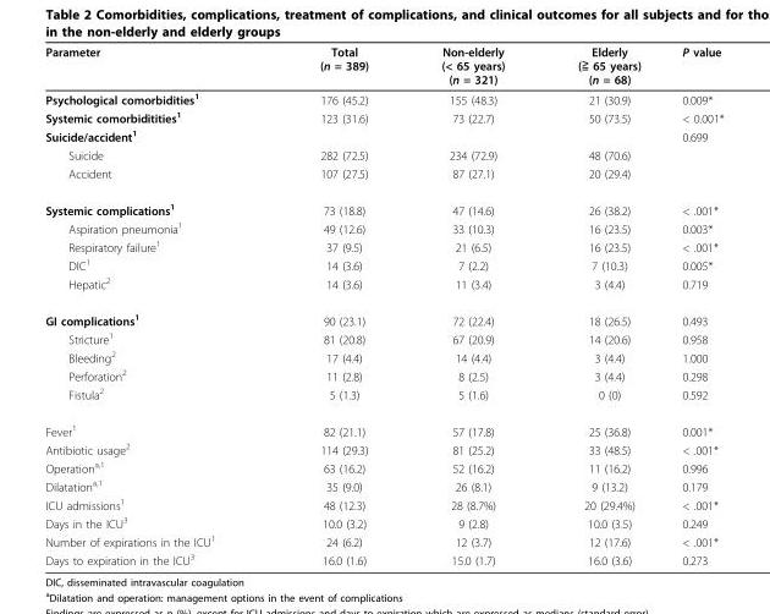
<table><thead><tr><td>Parameter</td><td>Total (n = 389)</td><td>Non-elderly (&lt; 65 years) (n = 321)</td><td>Elderly (≧ 65 years) (n = 68)</td><td>P value</td></tr></thead><tbody><tr><td>Psychological comorbidities<sup>1</sup></td><td>176 (45.2)</td><td>155 (48.3)</td><td>21 (30.9)</td><td>0.009*</td></tr><tr><td>Systemic comorbiditities<sup>1</sup></td><td>123 (31.6)</td><td>73 (22.7)</td><td>50 (73.5)</td><td>&lt; 0.001*</td></tr><tr><td>Suicide/accident<sup>1</sup></td><td></td><td></td><td></td><td>0.699</td></tr><tr><td>Suicide</td><td>282 (72.5)</td><td>234 (72.9)</td><td>48 (70.6)</td><td></td></tr><tr><td>Accident</td><td>107 (27.5)</td><td>87 (27.1)</td><td>20 (29.4)</td><td></td></tr><tr><td>Systemic complications<sup>1</sup></td><td>73 (18.8)</td><td>47 (14.6)</td><td>26 (38.2)</td><td>&lt; .001*</td></tr><tr><td>Aspiration pneumonia<sup>1</sup></td><td>49 (12.6)</td><td>33 (10.3)</td><td>16 (23.5)</td><td>0.003*</td></tr><tr><td>Respiratory failure<sup>1</sup></td><td>37 (9.5)</td><td>21 (6.5)</td><td>16 (23.5)</td><td>&lt; .001*</td></tr><tr><td>DIC<sup>1</sup></td><td>14 (3.6)</td><td>7 (2.2)</td><td>7 (10.3)</td><td>0.005*</td></tr><tr><td>Hepatic<sup>2</sup></td><td>14 (3.6)</td><td>11 (3.4)</td><td>3 (4.4)</td><td>0.719</td></tr><tr><td>GI complications<sup>1</sup></td><td>90 (23.1)</td><td>72 (22.4)</td><td>18 (26.5)</td><td>0.493</td></tr><tr><td>Stricture<sup>1</sup></td><td>81 (20.8)</td><td>67 (20.9)</td><td>14 (20.6)</td><td>0.958</td></tr><tr><td>Bleeding<sup>2</sup></td><td>17 (4.4)</td><td>14 (4.4)</td><td>3 (4.4)</td><td>1.000</td></tr><tr><td>Perforation<sup>2</sup></td><td>11 (2.8)</td><td>8 (2.5)</td><td>3 (4.4)</td><td>0.298</td></tr><tr><td>Fistula<sup>2</sup></td><td>5 (1.3)</td><td>5 (1.6)</td><td>0 (0)</td><td>0.592</td></tr><tr><td>Fever<sup>1</sup></td><td>82 (21.1)</td><td>57 (17.8)</td><td>25 (36.8)</td><td>0.001*</td></tr><tr><td>Antibiotic usage<sup>2</sup></td><td>114 (29.3)</td><td>81 (25.2)</td><td>33 (48.5)</td><td>&lt; .001*</td></tr><tr><td>Operation<sup>a,1</sup></td><td>63 (16.2)</td><td>52 (16.2)</td><td>11 (16.2)</td><td>0.996</td></tr><tr><td>Dilatation<sup>a,1</sup></td><td>35 (9.0)</td><td>26 (8.1)</td><td>9 (13.2)</td><td>0.179</td></tr><tr><td>ICU admissions<sup>1</sup></td><td>48 (12.3)</td><td>28 (8.7%)</td><td>20 (29.4%)</td><td>&lt; .001*</td></tr><tr><td>Days in the ICU<sup>3</sup></td><td>10.0 (3.2)</td><td>9 (2.8)</td><td>10.0 (3.5)</td><td>0.249</td></tr><tr><td>Number of expirations in the ICU<sup>1</sup></td><td>24 (6.2)</td><td>12 (3.7)</td><td>12 (17.6)</td><td>&lt; .001*</td></tr><tr><td>Days to expiration in the ICU<sup>3</sup></td><td>16.0 (1.6)</td><td>15.0 (1.7)</td><td>16.0 (3.6)</td><td>0.273</td></tr></tbody></table>